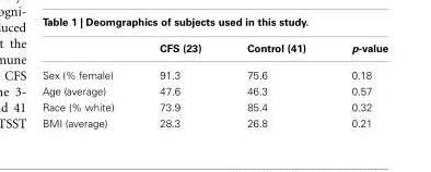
<table><thead><tr><td></td><td>CFS (23)</td><td>Control (41)</td><td>p-value</td></tr></thead><tbody><tr><td>Sex (% female)</td><td>91.3</td><td>75.6</td><td>0.18</td></tr><tr><td>Age (average)</td><td>47.6</td><td>46.3</td><td>0.57</td></tr><tr><td>Race (% white)</td><td>73.9</td><td>85.4</td><td>0.32</td></tr><tr><td>BMI (average)</td><td>28.3</td><td>26.8</td><td>0.21</td></tr></tbody></table>